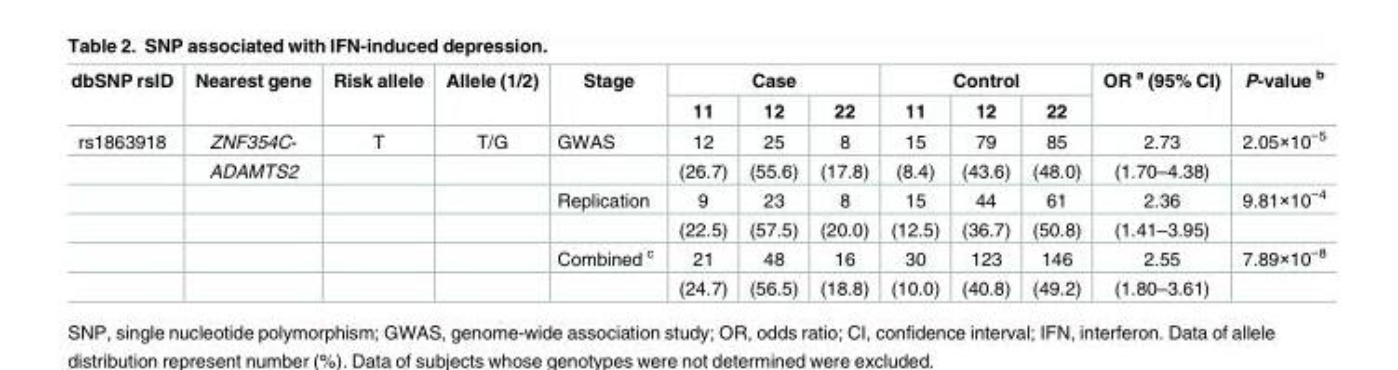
<table><thead><tr><td rowspan="2">dbSNP rsID</td><td rowspan="2">Nearest gene</td><td rowspan="2">Risk allele</td><td rowspan="2">Allele (1/2)</td><td rowspan="2">Stage</td><td colspan="3">Case</td><td colspan="3">Control</td><td rowspan="2">OR <sup>a</sup> (95% CI)</td><td rowspan="2">P-value <sup>b</sup></td></tr><tr><td>11</td><td>12</td><td>22</td><td>11</td><td>12</td><td>22</td></tr></thead><tbody><tr><td rowspan="6">rs1863918</td><td>ZNF354C-</td><td>T</td><td>T/G</td><td>GWAS</td><td>12</td><td>25</td><td>8</td><td>15</td><td>79</td><td>85</td><td>2.73</td><td>2.05×10<sup>−5</sup></td></tr><tr><td>ADAMTS2</td><td></td><td></td><td></td><td>(26.7)</td><td>(55.6)</td><td>(17.8)</td><td>(8.4)</td><td>(43.6)</td><td>(48.0)</td><td>(1.70–4.38)</td><td></td></tr><tr><td></td><td></td><td></td><td>Replication</td><td>9</td><td>23</td><td>8</td><td>15</td><td>44</td><td>61</td><td>2.36</td><td>9.81×10<sup>−4</sup></td></tr><tr><td></td><td></td><td></td><td></td><td>(22.5)</td><td>(57.5)</td><td>(20.0)</td><td>(12.5)</td><td>(36.7)</td><td>(50.8)</td><td>(1.41–3.95)</td><td></td></tr><tr><td></td><td></td><td></td><td>Combined <sup>c</sup></td><td>21</td><td>48</td><td>16</td><td>30</td><td>123</td><td>146</td><td>2.55</td><td>7.89×10<sup>−8</sup></td></tr><tr><td></td><td></td><td></td><td></td><td>(24.7)</td><td>(56.5)</td><td>(18.8)</td><td>(10.0)</td><td>(40.8)</td><td>(49.2)</td><td>(1.80–3.61)</td><td></td></tr></tbody></table>